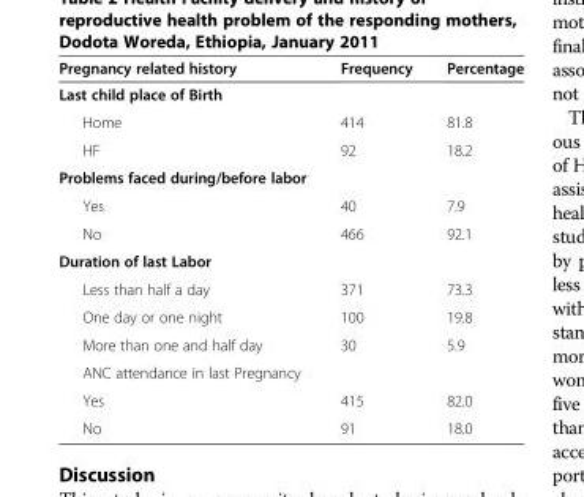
<table><thead><tr><td>Pregnancy related history</td><td>Frequency</td><td>Percentage</td></tr></thead><tbody><tr><td colspan="3">Last child place of Birth</td></tr><tr><td>Home</td><td>414</td><td>81.8</td></tr><tr><td>HF</td><td>92</td><td>18.2</td></tr><tr><td colspan="3">Problems faced during/before labor</td></tr><tr><td>Yes</td><td>40</td><td>7.9</td></tr><tr><td>No</td><td>466</td><td>92.1</td></tr><tr><td colspan="3">Duration of last Labor</td></tr><tr><td>Less than half a day</td><td>371</td><td>73.3</td></tr><tr><td>One day or one night</td><td>100</td><td>19.8</td></tr><tr><td>More than one and half day</td><td>30</td><td>5.9</td></tr><tr><td colspan="3">ANC attendance in last Pregnancy</td></tr><tr><td>Yes</td><td>415</td><td>82.0</td></tr><tr><td>No</td><td>91</td><td>18.0</td></tr></tbody></table>